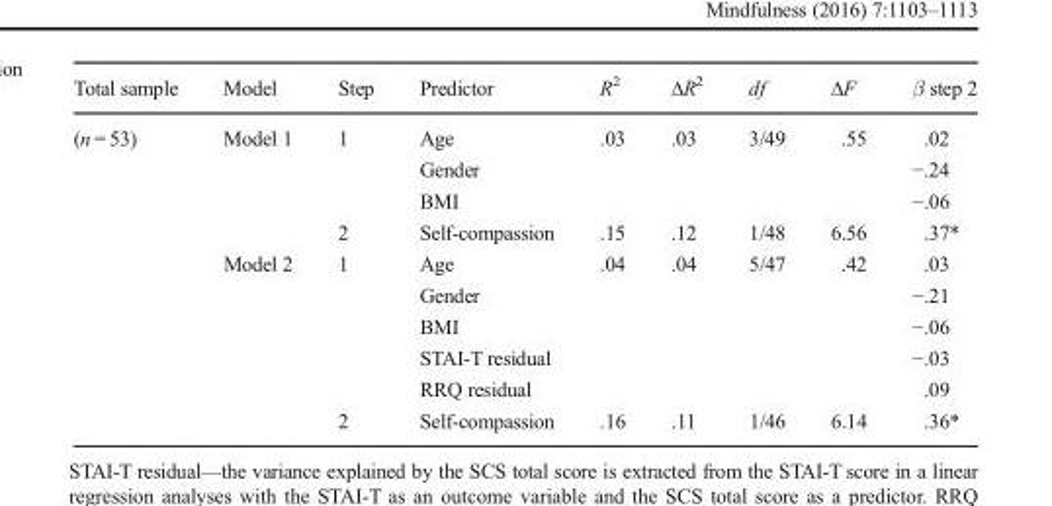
<table><thead><tr><td>Total sample</td><td>Model</td><td>Step</td><td>Predictor</td><td>R<sup>2</sup></td><td>ΔR2</td><td>df</td><td>ΔF</td><td>β step 2</td></tr></thead><tbody><tr><td rowspan="10">(n = 53)</td><td rowspan="4">Model 1</td><td>1</td><td>Age</td><td>.03</td><td>.03</td><td>3/49</td><td>.55</td><td>.02</td></tr><tr><td></td><td>Gender</td><td></td><td></td><td></td><td></td><td>−.24</td></tr><tr><td></td><td>BMI</td><td></td><td></td><td></td><td></td><td>−.06</td></tr><tr><td>2</td><td>Self-compassion</td><td>.15</td><td>.12</td><td>1/48</td><td>6.56</td><td>.37*</td></tr><tr><td>Model 2</td><td>1</td><td>Age</td><td>.04</td><td>.04</td><td>5/47</td><td>.42</td><td>.03</td></tr><tr><td rowspan="5"></td><td></td><td>Gender</td><td></td><td></td><td></td><td></td><td>−.21</td></tr><tr><td></td><td>BMI</td><td></td><td></td><td></td><td></td><td>−.06</td></tr><tr><td></td><td>STAI-T residual</td><td></td><td></td><td></td><td></td><td>−.03</td></tr><tr><td></td><td>RRQ residual</td><td></td><td></td><td></td><td></td><td>.09</td></tr><tr><td>2</td><td>Self-compassion</td><td>.16</td><td>.11</td><td>1/46</td><td>6.14</td><td>.36*</td></tr></tbody></table>